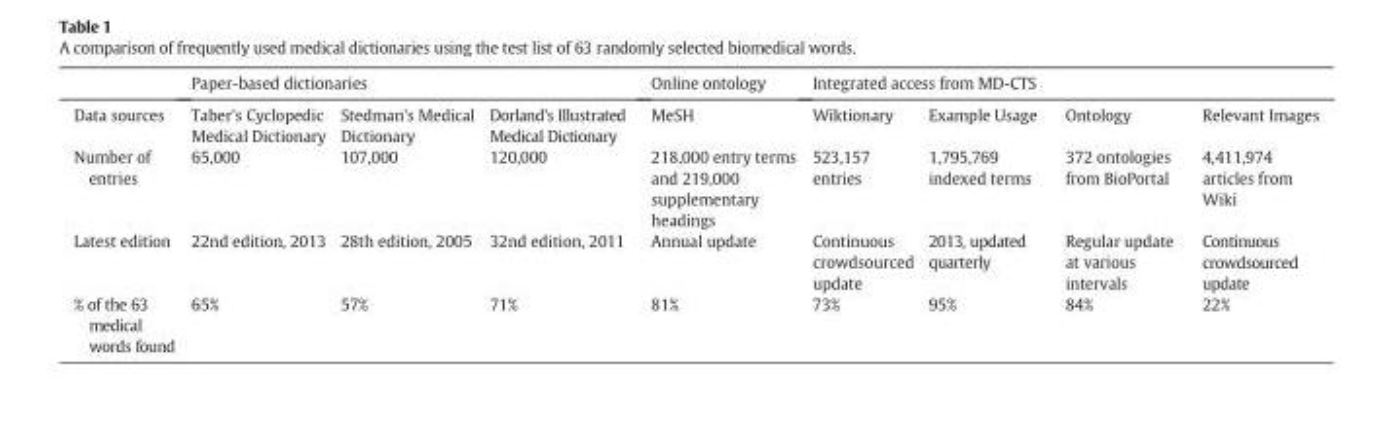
<table><thead><tr><td rowspan="2">Data sources</td><td colspan="3">Paper-based dictionaries</td><td rowspan="2">Online ontology MeSH</td><td colspan="4">Integrated access from MD-CTS</td></tr><tr><td>Taber&#x27;s Cyclopedic Medical Dictionary</td><td>Stedman&#x27;s Medical Dictionary</td><td>Dorland&#x27;s Illustrated Medical Dictionary</td><td>Wiktionary</td><td>Example Usage</td><td>Ontology</td><td>Relevant Images</td></tr></thead><tbody><tr><td>Number of entries</td><td>65,000</td><td>107,000</td><td>120,000</td><td>218,000 entry terms and 219,000 supplementary headings</td><td>523,157 entries</td><td>1,795,769 indexed terms</td><td>372 ontologies from BioPortal</td><td>4,411,974 articles from Wiki</td></tr><tr><td>Latest edition</td><td>22nd edition, 2013</td><td>28th edition, 2005</td><td>32nd edition, 2011</td><td>Annual update</td><td>Continuous crowdsourced update</td><td>2013, updated quarterly</td><td>Regular update at various intervals</td><td>Continuous crowdsourced update</td></tr><tr><td>% of the 63 medical words found</td><td>65%</td><td>57%</td><td>71%</td><td>81%</td><td>73%</td><td>95%</td><td>84%</td><td>22%</td></tr></tbody></table>